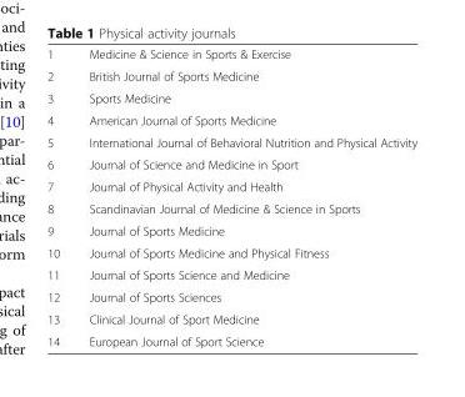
<table><tbody><tr><td>1</td><td>Medicine &amp; Science in Sports &amp; Exercise</td></tr><tr><td>2</td><td>British Journal of Sports Medicine</td></tr><tr><td>3</td><td>Sports Medicine</td></tr><tr><td>4</td><td>American Journal of Sports Medicine</td></tr><tr><td>5</td><td>International Journal of Behavioral Nutrition and Physical Activity</td></tr><tr><td>6</td><td>Journal of Science and Medicine in Sport</td></tr><tr><td>7</td><td>Journal of Physical Activity and Health</td></tr><tr><td>8</td><td>Scandinavian Journal of Medicine &amp; Science in Sports</td></tr><tr><td>9</td><td>Journal of Sports Medicine</td></tr><tr><td>10</td><td>Journal of Sports Medicine and Physical Fitness</td></tr><tr><td>11</td><td>Journal of Sports Science and Medicine</td></tr><tr><td>12</td><td>Journal of Sports Sciences</td></tr><tr><td>13</td><td>Clinical Journal of Sport Medicine</td></tr><tr><td>14</td><td>European Journal of Sport Science</td></tr></tbody></table>